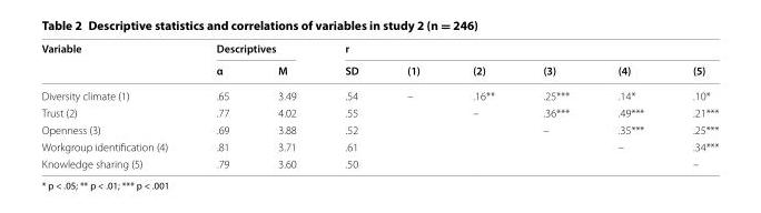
<table><thead><tr><td rowspan="2">Variable</td><td colspan="2">Descriptives</td><td colspan="6">r</td></tr><tr><td>α</td><td>M</td><td>SD</td><td>(1)</td><td>(2)</td><td>(3)</td><td>(4)</td><td>(5)</td></tr></thead><tbody><tr><td>Diversity climate (1)</td><td>.65</td><td>3.49</td><td>.54</td><td>–</td><td>.16**</td><td>.25***</td><td>.14*</td><td>.10*</td></tr><tr><td>Trust (2)</td><td>.77</td><td>4.02</td><td>.55</td><td></td><td>–</td><td>.36***</td><td>.49***</td><td>.21***</td></tr><tr><td>Openness (3)</td><td>.69</td><td>3.88</td><td>.52</td><td></td><td></td><td>–</td><td>.35***</td><td>.25***</td></tr><tr><td>Workgroup identification (4)</td><td>.81</td><td>3.71</td><td>.61</td><td></td><td></td><td></td><td>–</td><td>.34***</td></tr><tr><td>Knowledge sharing (5)</td><td>.79</td><td>3.60</td><td>.50</td><td></td><td></td><td></td><td></td><td>–</td></tr></tbody></table>